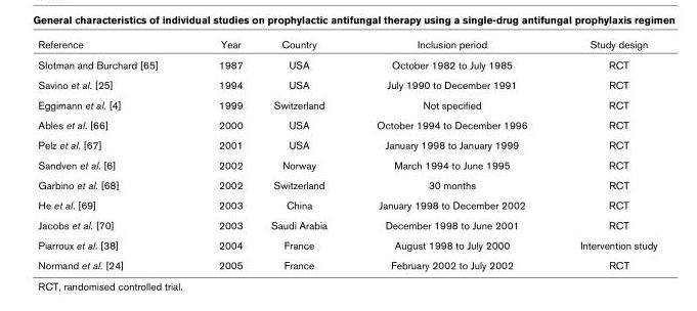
<table><thead><tr><td>Reference</td><td>Year</td><td>Country</td><td>Inclusion period</td><td>Study design</td></tr></thead><tbody><tr><td>Slotman and Burchard [65]</td><td>1987</td><td>USA</td><td>October 1982 to July 1985</td><td>RCT</td></tr><tr><td>Savino et al. [25]</td><td>1994</td><td>USA</td><td>July 1990 to December 1991</td><td>RCT</td></tr><tr><td>Eggimann et al. [4]</td><td>1999</td><td>Switzerland</td><td>Not specified</td><td>RCT</td></tr><tr><td>Ables et al. [66]</td><td>2000</td><td>USA</td><td>October 1994 to December 1996</td><td>RCT</td></tr><tr><td>Pelz et al. [67]</td><td>2001</td><td>USA</td><td>January 1998 to January 1999</td><td>RCT</td></tr><tr><td>Sandven et al. [6]</td><td>2002</td><td>Norway</td><td>March 1994 to June 1995</td><td>RCT</td></tr><tr><td>Garbino et al. [68]</td><td>2002</td><td>Switzerland</td><td>30 months</td><td>RCT</td></tr><tr><td>He et al. [69]</td><td>2003</td><td>China</td><td>January 1998 to December 2002</td><td>RCT</td></tr><tr><td>Jacobs et al. [70]</td><td>2003</td><td>Saudi Arabia</td><td>December 1998 to June 2001</td><td>RCT</td></tr><tr><td>Piarroux et al. [38]</td><td>2004</td><td>France</td><td>August 1998 to July 2000</td><td>Intervention study</td></tr><tr><td>Normand et al. [24]</td><td>2005</td><td>France</td><td>February 2002 to July 2002</td><td>RCT</td></tr></tbody></table>